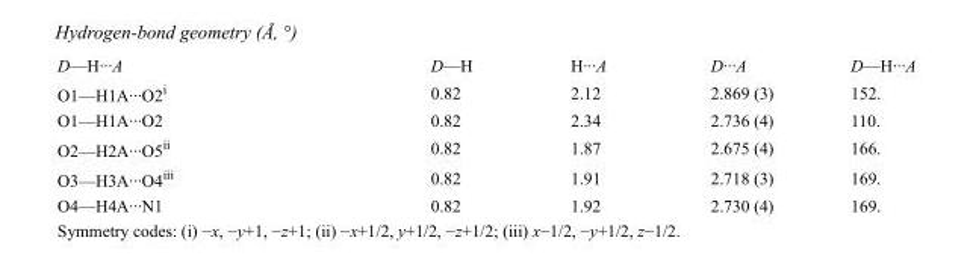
<table><tbody><tr><td>D—H···A</td><td>D—H</td><td>H···A</td><td>D···A</td><td>D—H···A</td></tr><tr><td>O1—H1A···O2<sup>i</sup></td><td>0.82</td><td>2.12</td><td>2.869 (3)</td><td>152.</td></tr><tr><td>O1—H1A···O2</td><td>0.82</td><td>2.34</td><td>2.736 (4)</td><td>110.</td></tr><tr><td>O2—H2A···O5<sup>ii</sup></td><td>0.82</td><td>1.87</td><td>2.675 (4)</td><td>166.</td></tr><tr><td>O3—H3A···O4<sup>iii</sup></td><td>0.82</td><td>1.91</td><td>2.718 (3)</td><td>169.</td></tr><tr><td>O4—H4A···N1</td><td>0.82</td><td>1.92</td><td>2.730 (4)</td><td>169.</td></tr></tbody></table>